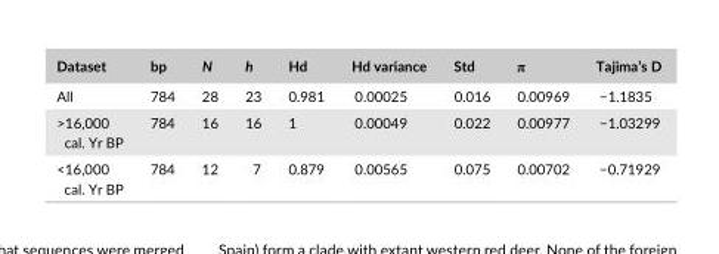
<table><thead><tr><td>Dataset</td><td>bp</td><td>N</td><td>h</td><td>Hd</td><td>Hd variance</td><td>Std</td><td>π</td><td>Tajima’s D</td></tr></thead><tbody><tr><td>All</td><td>784</td><td>28</td><td>23</td><td>0.981</td><td>0.00025</td><td>0.016</td><td>0.00969</td><td>−1.1835</td></tr><tr><td>&gt;16,000 cal. Yr BP</td><td>784</td><td>16</td><td>16</td><td>1</td><td>0.00049</td><td>0.022</td><td>0.00977</td><td>−1.03299</td></tr><tr><td>&lt;16,000 cal. Yr BP</td><td>784</td><td>12</td><td>7</td><td>0.879</td><td>0.00565</td><td>0.075</td><td>0.00702</td><td>−0.71929</td></tr></tbody></table>